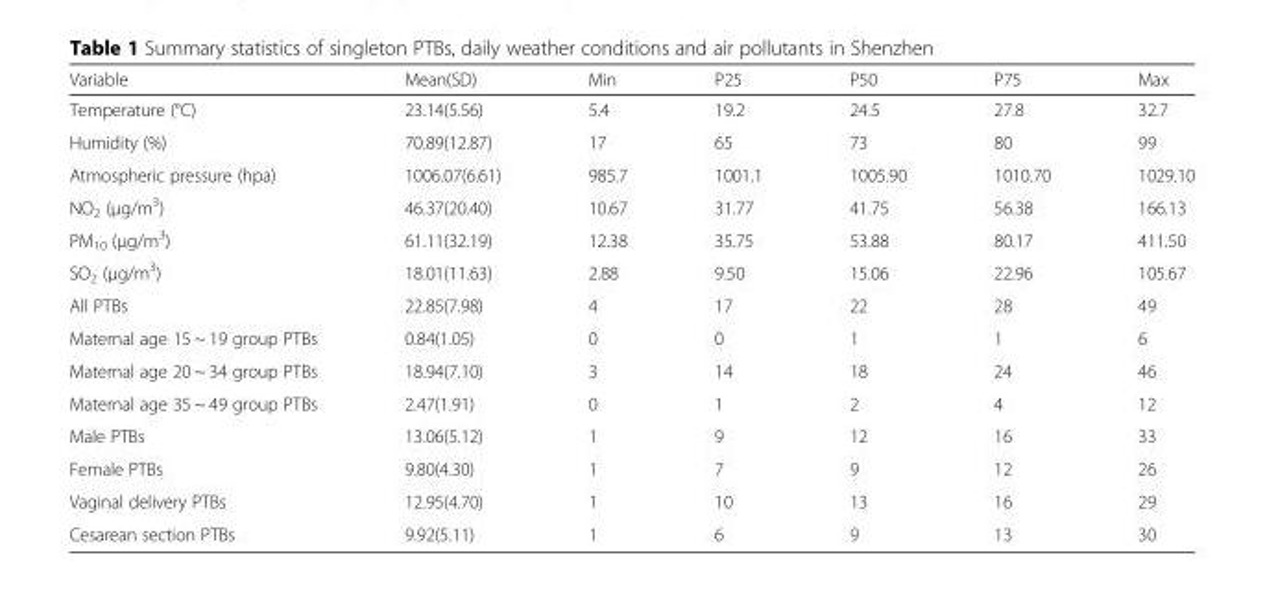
<table><thead><tr><td>Variable</td><td>Mean(SD)</td><td>Min</td><td>P25</td><td>P50</td><td>P75</td><td>Max</td></tr></thead><tbody><tr><td>Temperature (°C)</td><td>23.14(5.56)</td><td>5.4</td><td>19.2</td><td>24.5</td><td>27.8</td><td>32.7</td></tr><tr><td>Humidity (%)</td><td>70.89(12.87)</td><td>17</td><td>65</td><td>73</td><td>80</td><td>99</td></tr><tr><td>Atmospheric pressure (hpa)</td><td>1006.07(6.61)</td><td>985.7</td><td>1001.1</td><td>1005.90</td><td>1010.70</td><td>1029.10</td></tr><tr><td>NO<sub>2</sub> (μg/m<sup>3</sup>)</td><td>46.37(20.40)</td><td>10.67</td><td>31.77</td><td>41.75</td><td>56.38</td><td>166.13</td></tr><tr><td>PM<sub>10</sub> (μg/m<sup>3</sup>)</td><td>61.11(32.19)</td><td>12.38</td><td>35.75</td><td>53.88</td><td>80.17</td><td>411.50</td></tr><tr><td>SO<sub>2</sub> (μg/m<sup>3</sup>)</td><td>18.01(11.63)</td><td>2.88</td><td>9.50</td><td>15.06</td><td>22.96</td><td>105.67</td></tr><tr><td>All PTBs</td><td>22.85(7.98)</td><td>4</td><td>17</td><td>22</td><td>28</td><td>49</td></tr><tr><td>Maternal age 15 ~ 19 group PTBs</td><td>0.84(1.05)</td><td>0</td><td>0</td><td>1</td><td>1</td><td>6</td></tr><tr><td>Maternal age 20 ~ 34 group PTBs</td><td>18.94(7.10)</td><td>3</td><td>14</td><td>18</td><td>24</td><td>46</td></tr><tr><td>Maternal age 35 ~ 49 group PTBs</td><td>2.47(1.91)</td><td>0</td><td>1</td><td>2</td><td>4</td><td>12</td></tr><tr><td>Male PTBs</td><td>13.06(5.12)</td><td>1</td><td>9</td><td>12</td><td>16</td><td>33</td></tr><tr><td>Female PTBs</td><td>9.80(4.30)</td><td>1</td><td>7</td><td>9</td><td>12</td><td>26</td></tr><tr><td>Vaginal delivery PTBs</td><td>12.95(4.70)</td><td>1</td><td>10</td><td>13</td><td>16</td><td>29</td></tr><tr><td>Cesarean section PTBs</td><td>9.92(5.11)</td><td>1</td><td>6</td><td>9</td><td>13</td><td>30</td></tr></tbody></table>